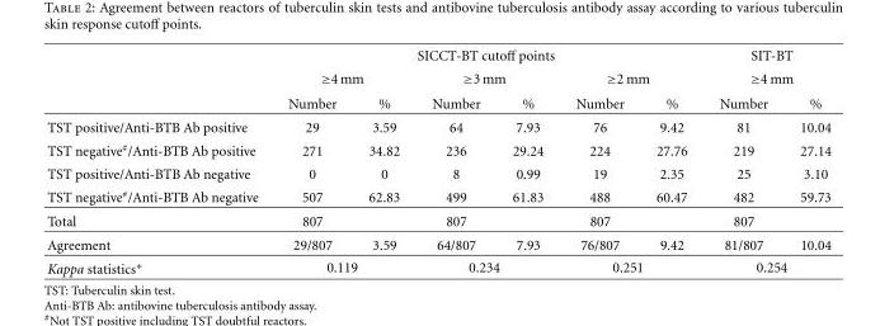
<table><thead><tr><td rowspan="3"></td><td colspan="6">SICCT-BT cutoff points</td><td rowspan="2" colspan="2">SIT-BT ≥4 mm</td></tr><tr><td colspan="2">≥4 mm</td><td colspan="2">≥3 mm</td><td colspan="2">≥2 mm</td></tr><tr><td>Number</td><td>%</td><td>Number</td><td>%</td><td>Number</td><td>%</td><td>Number</td><td>%</td></tr></thead><tbody><tr><td>TST positive/Anti-BTB Ab positive</td><td>29</td><td>3.59</td><td>64</td><td>7.93</td><td>76</td><td>9.42</td><td>81</td><td>10.04</td></tr><tr><td>TST negative<sup>#</sup>/Anti-BTB Ab positive</td><td>271</td><td>34.82</td><td>236</td><td>29.24</td><td>224</td><td>27.76</td><td>219</td><td>27.14</td></tr><tr><td>TST positive/Anti-BTB Ab negative</td><td>0</td><td>0</td><td>8</td><td>0.99</td><td>19</td><td>2.35</td><td>25</td><td>3.10</td></tr><tr><td>TST negative<sup>#</sup>/Anti-BTB Ab negative</td><td>507</td><td>62.83</td><td>499</td><td>61.83</td><td>488</td><td>60.47</td><td>482</td><td>59.73</td></tr><tr><td>Total</td><td>807</td><td></td><td>807</td><td></td><td>807</td><td></td><td>807</td><td></td></tr><tr><td>Agreement</td><td>29/807</td><td>3.59</td><td>64/807</td><td>7.93</td><td>76/807</td><td>9.42</td><td>81/807</td><td>10.04</td></tr><tr><td>Kappa statistics∗</td><td colspan="2">0.119</td><td colspan="2">0.234</td><td colspan="2">0.251</td><td colspan="2">0.254</td></tr></tbody></table>